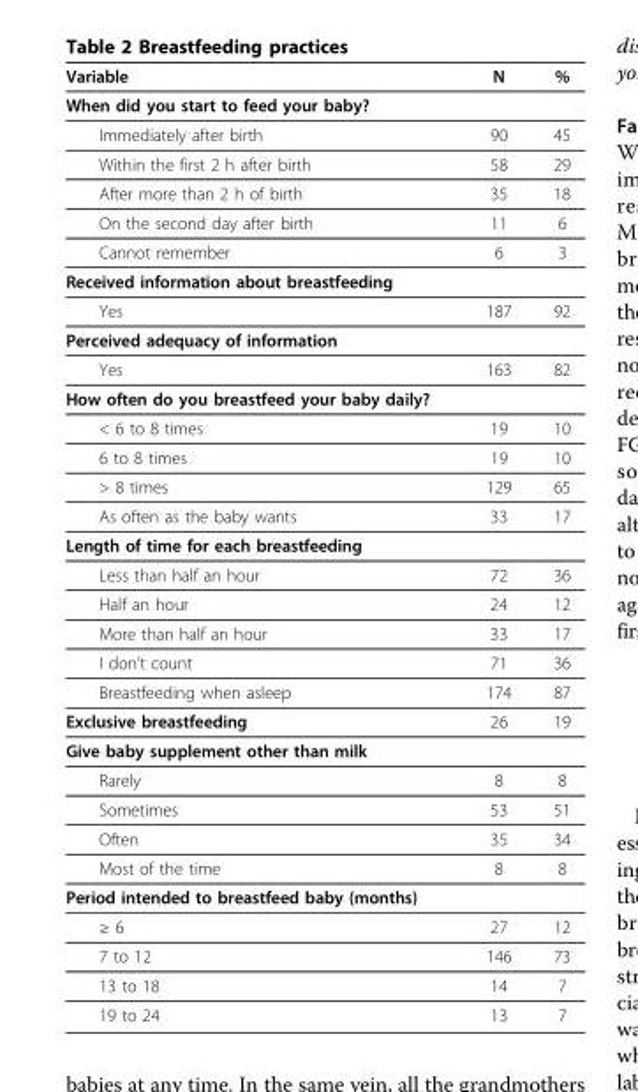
<table><thead><tr><td>Variable</td><td>N</td><td>%</td></tr></thead><tbody><tr><td colspan="3">When did you start to feed your baby?</td></tr><tr><td>Immediately after birth</td><td>90</td><td>45</td></tr><tr><td>Within the first 2 h after birth</td><td>58</td><td>29</td></tr><tr><td>After more than 2 h of birth</td><td>35</td><td>18</td></tr><tr><td>On the second day after birth</td><td>11</td><td>6</td></tr><tr><td>Cannot remember</td><td>6</td><td>3</td></tr><tr><td colspan="3">Received information about breastfeeding</td></tr><tr><td>Yes</td><td>187</td><td>92</td></tr><tr><td colspan="3">Perceived adequacy of information</td></tr><tr><td>Yes</td><td>163</td><td>82</td></tr><tr><td colspan="3">How often do you breastfeed your baby daily?</td></tr><tr><td>&lt; 6 to 8 times</td><td>19</td><td>10</td></tr><tr><td>6 to 8 times</td><td>19</td><td>10</td></tr><tr><td>&gt; 8 times</td><td>129</td><td>65</td></tr><tr><td>As often as the baby wants</td><td>33</td><td>17</td></tr><tr><td colspan="3">Length of time for each breastfeeding</td></tr><tr><td>Less than half an hour</td><td>72</td><td>36</td></tr><tr><td>Half an hour</td><td>24</td><td>12</td></tr><tr><td>More than half an hour</td><td>33</td><td>17</td></tr><tr><td>I don’t count</td><td>71</td><td>36</td></tr><tr><td>Breastfeeding when asleep</td><td>174</td><td>87</td></tr><tr><td>Exclusive breastfeeding</td><td>26</td><td>19</td></tr><tr><td colspan="3">Give baby supplement other than milk</td></tr><tr><td>Rarely</td><td>8</td><td>8</td></tr><tr><td>Sometimes</td><td>53</td><td>51</td></tr><tr><td>Often</td><td>35</td><td>34</td></tr><tr><td>Most of the time</td><td>8</td><td>8</td></tr><tr><td colspan="3">Period intended to breastfeed baby (months)</td></tr><tr><td>≥ 6</td><td>27</td><td>12</td></tr><tr><td>7 to 12</td><td>146</td><td>73</td></tr><tr><td>13 to 18</td><td>14</td><td>7</td></tr><tr><td>19 to 24</td><td>13</td><td>7</td></tr></tbody></table>